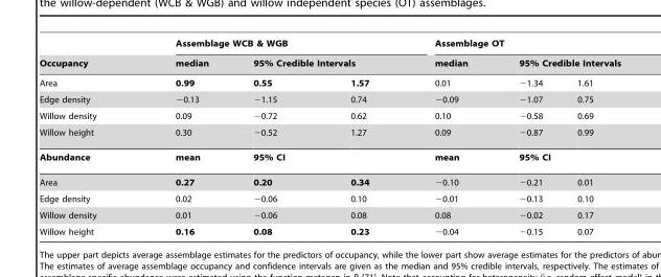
<table><thead><tr><td rowspan="3">Occupancy Area</td><td colspan="3">Assemblage WCB &amp; WGB</td><td colspan="3">Assemblage OT</td></tr><tr><td rowspan="2">median 0.99</td><td colspan="2">95% Credible Intervals</td><td rowspan="2">median 0.01</td><td colspan="2">95% Credible Intervals</td></tr><tr><td>0.55</td><td>1.57</td><td>−1.34</td><td>1.61</td></tr></thead><tbody><tr><td>Edge density</td><td>−0.13</td><td>−1.15</td><td>0.74</td><td>−0.09</td><td>−1.07</td><td>0.75</td></tr><tr><td>Willow density</td><td>0.09</td><td>−0.72</td><td>0.62</td><td>0.10</td><td>−0.58</td><td>0.69</td></tr><tr><td>Willow height</td><td>0.30</td><td>−0.52</td><td>1.27</td><td>0.09</td><td>−0.87</td><td>0.99</td></tr><tr><td>Abundance</td><td>mean</td><td colspan="2">95% CI</td><td>mean</td><td colspan="2">95% CI</td></tr><tr><td>Area</td><td>0.27</td><td>0.20</td><td>0.34</td><td>−0.10</td><td>−0.21</td><td>0.01</td></tr><tr><td>Edge density</td><td>0.02</td><td>−0.06</td><td>0.10</td><td>−0.01</td><td>−0.13</td><td>0.10</td></tr><tr><td>Willow density</td><td>0.01</td><td>−0.06</td><td>0.08</td><td>0.08</td><td>−0.02</td><td>0.17</td></tr><tr><td>Willow height</td><td>0.16</td><td>0.08</td><td>0.23</td><td>−0.04</td><td>−0.15</td><td>0.07</td></tr></tbody></table>